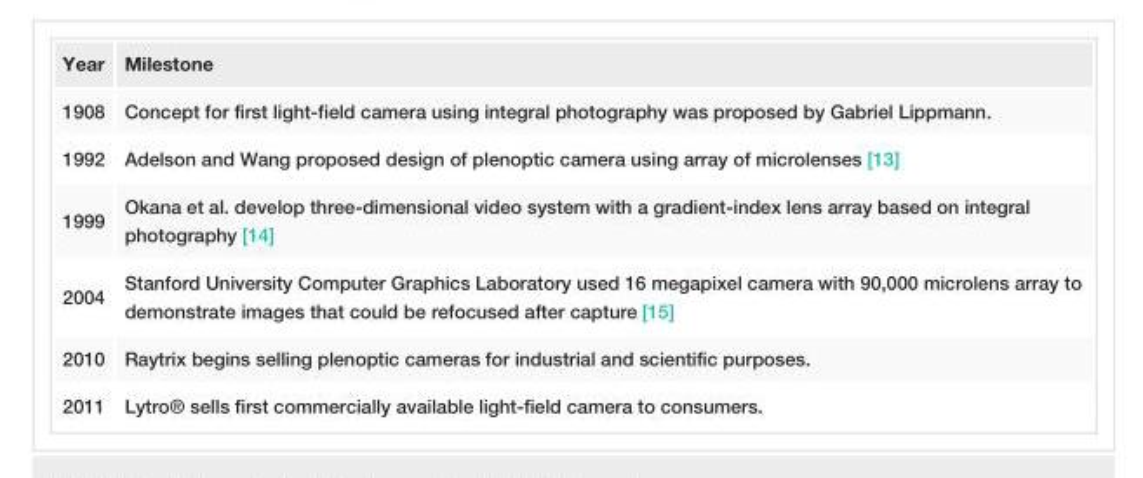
<table><tbody><tr><td>Year</td><td>Milestone</td></tr><tr><td>1908</td><td>Concept for first light-field camera using integral photography was proposed by Gabriel Lippmann.</td></tr><tr><td>1992</td><td>Adelson and Wang proposed design of plenoptic camera using array of microlenses [13]</td></tr><tr><td>1999</td><td>Okana et al. develop three-dimensional video system with a gradient-index lens array based on integral photography [14]</td></tr><tr><td>2004</td><td>Stanford University Computer Graphics Laboratory used 16 megapixel camera with 90,000 microlens array to demonstrate images that could be refocused after capture [15]</td></tr><tr><td>2010</td><td>Raytrix begins selling plenoptic cameras for industrial and scientific purposes.</td></tr><tr><td>2011</td><td>Lytro® sells first commercially available light-field camera to consumers.</td></tr></tbody></table>